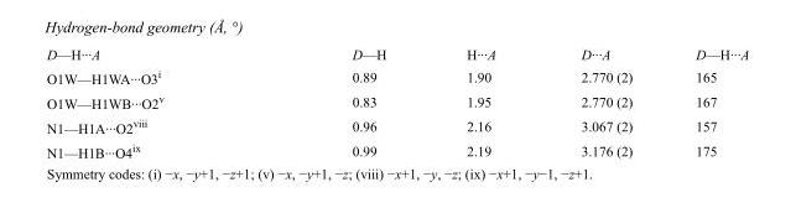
<table><tbody><tr><td>D—H···A</td><td>D—H</td><td>H···A</td><td>D···A</td><td>D—H···A</td></tr><tr><td>O1W—H1WA···O3<sup>i</sup></td><td>0.89</td><td>1.90</td><td>2.770 (2)</td><td>165</td></tr><tr><td>O1W—H1WB···O2<sup>v</sup></td><td>0.83</td><td>1.95</td><td>2.770 (2)</td><td>167</td></tr><tr><td>N1—H1A···O2<sup>viii</sup></td><td>0.96</td><td>2.16</td><td>3.067 (2)</td><td>157</td></tr><tr><td>N1—H1B···O4<sup>ix</sup></td><td>0.99</td><td>2.19</td><td>3.176 (2)</td><td>175</td></tr></tbody></table>